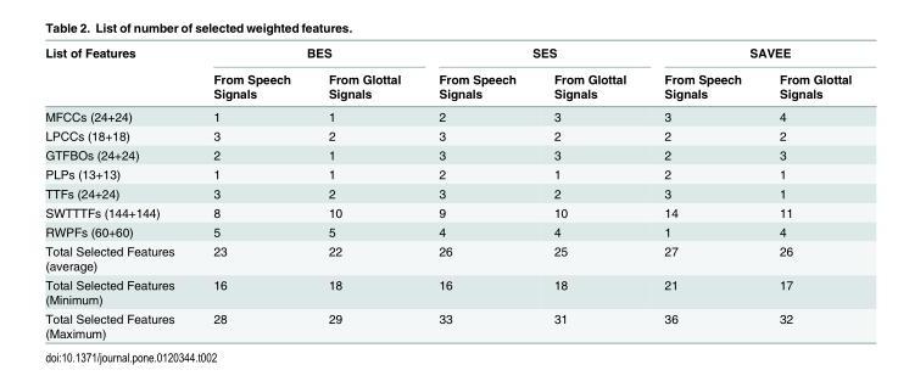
<table><thead><tr><td rowspan="2">List of Features</td><td colspan="2">BES</td><td colspan="2">SES</td><td colspan="2">SAVEE</td></tr><tr><td>From Speech Signals</td><td>From Glottal Signals</td><td>From Speech Signals</td><td>From Glottal Signals</td><td>From Speech Signals</td><td>From Glottal Signals</td></tr></thead><tbody><tr><td>MFCCs (24+24)</td><td>1</td><td>1</td><td>2</td><td>3</td><td>3</td><td>4</td></tr><tr><td>LPCCs (18+18)</td><td>3</td><td>2</td><td>3</td><td>2</td><td>2</td><td>2</td></tr><tr><td>GTFBOs (24+24)</td><td>2</td><td>1</td><td>3</td><td>3</td><td>2</td><td>3</td></tr><tr><td>PLPs (13+13)</td><td>1</td><td>1</td><td>2</td><td>1</td><td>2</td><td>1</td></tr><tr><td>TTFs (24+24)</td><td>3</td><td>2</td><td>3</td><td>2</td><td>3</td><td>1</td></tr><tr><td>SWTTTFs (144+144)</td><td>8</td><td>10</td><td>9</td><td>10</td><td>14</td><td>11</td></tr><tr><td>RWPFs (60+60)</td><td>5</td><td>5</td><td>4</td><td>4</td><td>1</td><td>4</td></tr><tr><td>Total Selected Features (average)</td><td>23</td><td>22</td><td>26</td><td>25</td><td>27</td><td>26</td></tr><tr><td>Total Selected Features (Minimum)</td><td>16</td><td>18</td><td>16</td><td>18</td><td>21</td><td>17</td></tr><tr><td>Total Selected Features (Maximum)</td><td>28</td><td>29</td><td>33</td><td>31</td><td>36</td><td>32</td></tr></tbody></table>